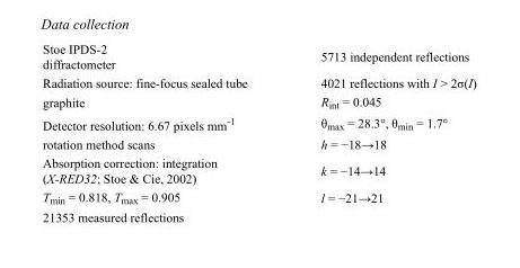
<table><tbody><tr><td>Stoe IPDS-2 diffractometer</td><td>5713 independent reflections</td></tr><tr><td>Radiation source: fine-focus sealed tube</td><td>4021 reflections with I &gt; 2σ(I)</td></tr><tr><td>graphite</td><td>R<sub>int</sub> = 0.045</td></tr><tr><td>Detector resolution: 6.67 pixels mm<sup>-1</sup></td><td>θ<sub>max</sub> = 28.3°, θ<sub>min</sub> = 1.7°</td></tr><tr><td>rotation method scans</td><td>h = −18→18</td></tr><tr><td>Absorption correction: integration (X-RED32; Stoe &amp; Cie, 2002)</td><td>k = −14→14</td></tr><tr><td>T<sub>min</sub> = 0.818, T<sub>max</sub> = 0.905</td><td>l = −21→21</td></tr><tr><td>21353 measured reflections</td><td></td></tr></tbody></table>